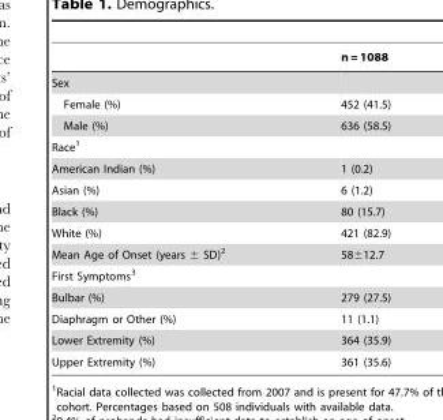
<table><thead><tr><td></td><td>n = 1088</td></tr></thead><tbody><tr><td colspan="2">Sex</td></tr><tr><td>Female (%)</td><td>452 (41.5)</td></tr><tr><td>Male (%)</td><td>636 (58.5)</td></tr><tr><td colspan="2">Race<sup>1</sup></td></tr><tr><td>American Indian (%)</td><td>1 (0.2)</td></tr><tr><td>Asian (%)</td><td>6 (1.2)</td></tr><tr><td>Black (%)</td><td>80 (15.7)</td></tr><tr><td>White (%)</td><td>421 (82.9)</td></tr><tr><td>Mean Age of Onset (years ± SD)<sup>2</sup></td><td>58±12.7</td></tr><tr><td colspan="2">First Symptoms<sup>3</sup></td></tr><tr><td>Bulbar (%)</td><td>279 (27.5)</td></tr><tr><td>Diaphragm or Other (%)</td><td>11 (1.1)</td></tr><tr><td>Lower Extremity (%)</td><td>364 (35.9)</td></tr><tr><td>Upper Extremity (%)</td><td>361 (35.6)</td></tr></tbody></table>